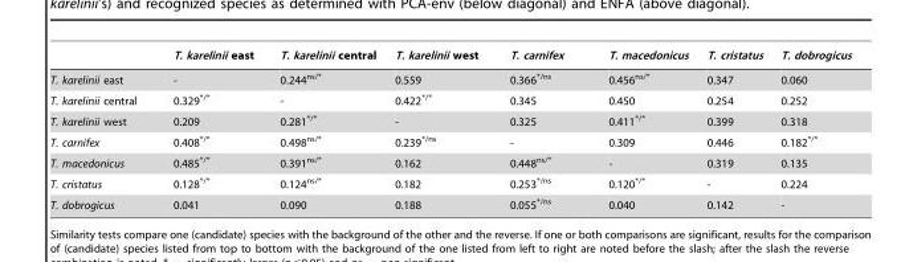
<table><thead><tr><td></td><td>T. karelinii east</td><td>T. karelinii central</td><td>T. karelinii west</td><td>T. carnifex</td><td>T. macedonicus</td><td>T. cristatus</td><td>T. dobrogicus</td></tr></thead><tbody><tr><td>T. karelinii east</td><td>-</td><td>0.244<sup>ns/*</sup></td><td>0.559</td><td>0.366<sup>*/ns</sup></td><td>0.456<sup>ns/*</sup></td><td>0.347</td><td>0.060</td></tr><tr><td>T. karelinii central</td><td>0.329<sup>*/*</sup></td><td>-</td><td>0.422<sup>*/*</sup></td><td>0.345</td><td>0.450</td><td>0.254</td><td>0.252</td></tr><tr><td>T. karelinii west</td><td>0.209</td><td>0.281<sup>*/*</sup></td><td>-</td><td>0.325</td><td>0.411<sup>*/*</sup></td><td>0.399</td><td>0.318</td></tr><tr><td>T. carnifex</td><td>0.408<sup>*/*</sup></td><td>0.498<sup>ns/*</sup></td><td>0.239<sup>*/ns</sup></td><td>-</td><td>0.309</td><td>0.446</td><td>0.182<sup>*/*</sup></td></tr><tr><td>T. macedonicus</td><td>0.485<sup>*/*</sup></td><td>0.391<sup>ns/*</sup></td><td>0.162</td><td>0.448<sup>ns/*</sup></td><td>-</td><td>0.319</td><td>0.135</td></tr><tr><td>T. cristatus</td><td>0.128<sup>*/*</sup></td><td>0.124<sup>ns/*</sup></td><td>0.182</td><td>0.253<sup>*/ns</sup></td><td>0.120<sup>*/*</sup></td><td>-</td><td>0.224</td></tr><tr><td>T. dobrogicus</td><td>0.041</td><td>0.090</td><td>0.188</td><td>0.055<sup>*/ns</sup></td><td>0.040</td><td>0.142</td><td>-</td></tr></tbody></table>